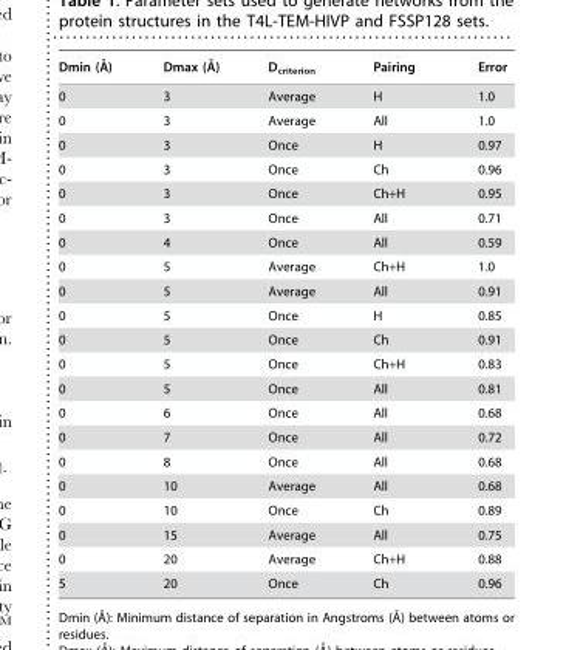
<table><thead><tr><td>Dmin (A˚)</td><td>Dmax (A˚)</td><td>D<sub>criterion</sub></td><td>Pairing</td><td>Error</td></tr></thead><tbody><tr><td>0</td><td>3</td><td>Average</td><td>H</td><td>1.0</td></tr><tr><td>0</td><td>3</td><td>Average</td><td>All</td><td>1.0</td></tr><tr><td>0</td><td>3</td><td>Once</td><td>H</td><td>0.97</td></tr><tr><td>0</td><td>3</td><td>Once</td><td>Ch</td><td>0.96</td></tr><tr><td>0</td><td>3</td><td>Once</td><td>Ch+H</td><td>0.95</td></tr><tr><td>0</td><td>3</td><td>Once</td><td>All</td><td>0.71</td></tr><tr><td>0</td><td>4</td><td>Once</td><td>All</td><td>0.59</td></tr><tr><td>0</td><td>5</td><td>Average</td><td>Ch+H</td><td>1.0</td></tr><tr><td>0</td><td>5</td><td>Average</td><td>All</td><td>0.91</td></tr><tr><td>0</td><td>5</td><td>Once</td><td>H</td><td>0.85</td></tr><tr><td>0</td><td>5</td><td>Once</td><td>Ch</td><td>0.91</td></tr><tr><td>0</td><td>5</td><td>Once</td><td>Ch+H</td><td>0.83</td></tr><tr><td>0</td><td>5</td><td>Once</td><td>All</td><td>0.81</td></tr><tr><td>0</td><td>6</td><td>Once</td><td>All</td><td>0.68</td></tr><tr><td>0</td><td>7</td><td>Once</td><td>All</td><td>0.72</td></tr><tr><td>0</td><td>8</td><td>Once</td><td>All</td><td>0.68</td></tr><tr><td>0</td><td>10</td><td>Average</td><td>All</td><td>0.68</td></tr><tr><td>0</td><td>10</td><td>Once</td><td>Ch</td><td>0.89</td></tr><tr><td>0</td><td>15</td><td>Average</td><td>All</td><td>0.75</td></tr><tr><td>0</td><td>20</td><td>Average</td><td>Ch+H</td><td>0.88</td></tr><tr><td>5</td><td>20</td><td>Once</td><td>Ch</td><td>0.96</td></tr></tbody></table>